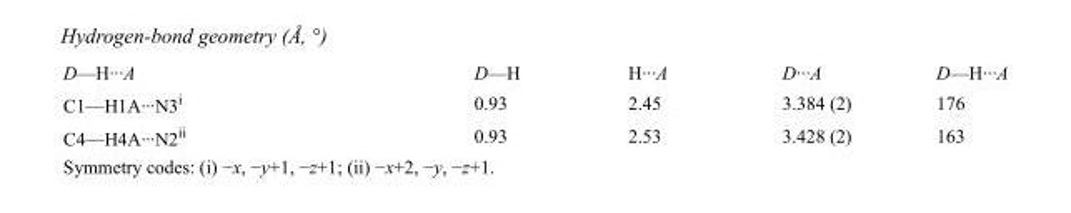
<table><tbody><tr><td>D—H···A</td><td>D—H</td><td>H···A</td><td>D···A</td><td>D—H···A</td></tr><tr><td>C1—H1A···N3<sup>i</sup></td><td>0.93</td><td>2.45</td><td>3.384 (2)</td><td>176</td></tr><tr><td>C4—H4A···N2<sup>ii</sup></td><td>0.93</td><td>2.53</td><td>3.428 (2)</td><td>163</td></tr></tbody></table>